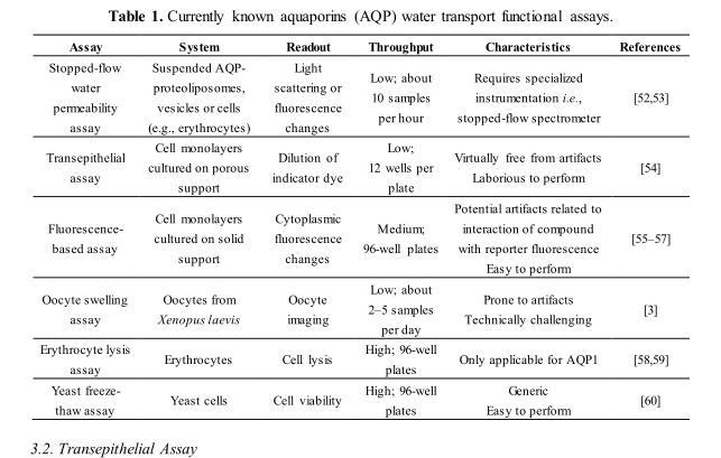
<table><thead><tr><td>Assay</td><td>System</td><td>Readout</td><td>Throughput</td><td>Characteristics</td><td>References</td></tr></thead><tbody><tr><td>Stopped-flow water permeability assay</td><td>Suspended AQP- proteoliposomes, vesicles or cells (e.g., erythrocytes)</td><td>Light scattering or fluorescence changes</td><td>Low; about 10 samples per hour</td><td>Requires specialized instrumentation i.e., stopped-flow spectrometer</td><td>[52,53]</td></tr><tr><td>Transepithelial assay</td><td>Cell monolayers cultured on porous support</td><td>Dilution of indicator dye</td><td>Low; 12 wells per plate</td><td>Virtually free from artifacts Laborious to perform</td><td>[54]</td></tr><tr><td>Fluorescence- based assay</td><td>Cell monolayers cultured on solid support</td><td>Cytoplasmic fluorescence changes</td><td>Medium; 96-well plates</td><td>Potential artifacts related to interaction of compound with reporter fluorescence Easy to perform</td><td>[55–57]</td></tr><tr><td>Oocyte swelling assay</td><td>Oocytes from Xenopus laevis</td><td>Oocyte imaging</td><td>Low; about 2–5 samples per day</td><td>Prone to artifacts Technically challenging</td><td>[3]</td></tr><tr><td>Erythrocyte lysis assay</td><td>Erythrocytes</td><td>Cell lysis</td><td>High; 96-well plates</td><td>Only applicable for AQP1</td><td>[58,59]</td></tr><tr><td>Yeast freeze- thaw assay</td><td>Yeast cells</td><td>Cell viability</td><td>High; 96-well plates</td><td>Generic Easy to perform</td><td>[60]</td></tr></tbody></table>